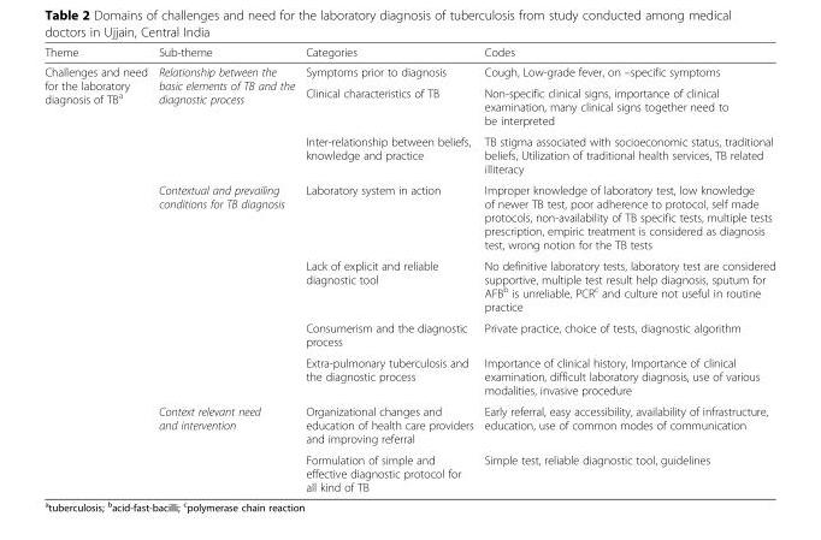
<table><thead><tr><td>Theme</td><td>Sub-theme</td><td>Categories</td><td>Codes</td></tr></thead><tbody><tr><td rowspan="9">Challenges and need for the laboratory diagnosis of TB<sup>a</sup></td><td rowspan="3">Relationship between the basic elements of TB and the diagnostic process</td><td>Symptoms prior to diagnosis</td><td>Cough, Low-grade fever, on –specific symptoms</td></tr><tr><td>Clinical characteristics of TB</td><td>Non-specific clinical signs, importance of clinical examination, many clinical signs together need to be interpreted</td></tr><tr><td>Inter-relationship between beliefs, knowledge and practice</td><td>TB stigma associated with socioeconomic status, traditional beliefs, Utilization of traditional health services, TB related illiteracy</td></tr><tr><td rowspan="4">Contextual and prevailing conditions for TB diagnosis</td><td>Laboratory system in action</td><td>Improper knowledge of laboratory test, low knowledge of newer TB test, poor adherence to protocol, self made protocols, non-availability of TB specific tests, multiple tests prescription, empiric treatment is considered as diagnosis test, wrong notion for the TB tests</td></tr><tr><td>Lack of explicit and reliable diagnostic tool</td><td>No definitive laboratory tests, laboratory test are considered supportive, multiple test result help diagnosis, sputum for AFB<sup>b</sup> is unreliable, PCR<sup>c</sup> and culture not useful in routine practice</td></tr><tr><td>Consumerism and the diagnostic process</td><td>Private practice, choice of tests, diagnostic algorithm</td></tr><tr><td>Extra-pulmonary tuberculosis and the diagnostic process</td><td>Importance of clinical history, Importance of clinical examination, difficult laboratory diagnosis, use of various modalities, invasive procedure</td></tr><tr><td rowspan="2">Context relevant need and intervention</td><td>Organizational changes and education of health care providers and improving referral</td><td>Early referral, easy accessibility, availability of infrastructure, education, use of common modes of communication</td></tr><tr><td>Formulation of simple and effective diagnostic protocol for all kind of TB</td><td>Simple test, reliable diagnostic tool, guidelines</td></tr></tbody></table>